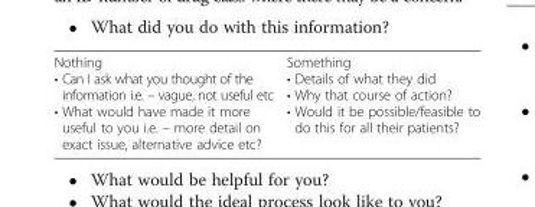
<table><tbody><tr><td>Nothing • Can I ask what you thought of the information i.e. – vague, not useful etc • What would have made it more useful to you i.e. – more detail on exact issue, alternative advice etc?</td><td>Something • Details of what they did • Why that course of action? • Would it be possible/feasible to do this for all their patients?</td></tr></tbody></table>